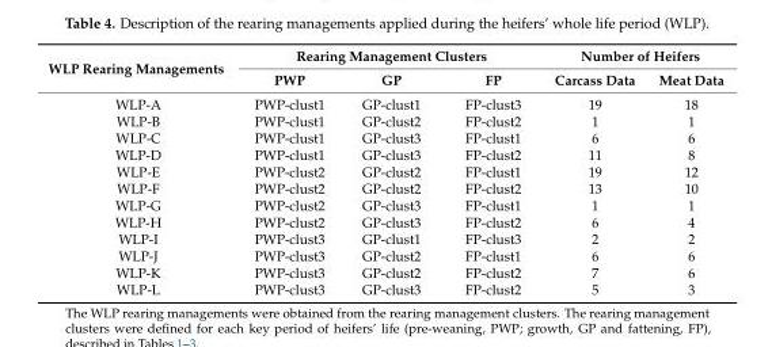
<table><thead><tr><td rowspan="2">WLP Rearing Managements</td><td colspan="3">Rearing Management Clusters</td><td colspan="2">Number of Heifers</td></tr><tr><td>PWP</td><td>GP</td><td>FP</td><td>Carcass Data</td><td>Meat Data</td></tr></thead><tbody><tr><td>WLP-A</td><td>PWP-clust1</td><td>GP-clust1</td><td>FP-clust3</td><td>19</td><td>18</td></tr><tr><td>WLP-B</td><td>PWP-clust1</td><td>GP-clust2</td><td>FP-clust2</td><td>1</td><td>1</td></tr><tr><td>WLP-C</td><td>PWP-clust1</td><td>GP-clust3</td><td>FP-clust1</td><td>6</td><td>6</td></tr><tr><td>WLP-D</td><td>PWP-clust1</td><td>GP-clust3</td><td>FP-clust2</td><td>11</td><td>8</td></tr><tr><td>WLP-E</td><td>PWP-clust2</td><td>GP-clust2</td><td>FP-clust1</td><td>19</td><td>12</td></tr><tr><td>WLP-F</td><td>PWP-clust2</td><td>GP-clust2</td><td>FP-clust2</td><td>13</td><td>10</td></tr><tr><td>WLP-G</td><td>PWP-clust2</td><td>GP-clust3</td><td>FP-clust1</td><td>1</td><td>1</td></tr><tr><td>WLP-H</td><td>PWP-clust2</td><td>GP-clust3</td><td>FP-clust2</td><td>6</td><td>4</td></tr><tr><td>WLP-I</td><td>PWP-clust3</td><td>GP-clust1</td><td>FP-clust3</td><td>2</td><td>2</td></tr><tr><td>WLP-J</td><td>PWP-clust3</td><td>GP-clust2</td><td>FP-clust1</td><td>6</td><td>6</td></tr><tr><td>WLP-K</td><td>PWP-clust3</td><td>GP-clust2</td><td>FP-clust2</td><td>7</td><td>6</td></tr><tr><td>WLP-L</td><td>PWP-clust3</td><td>GP-clust3</td><td>FP-clust2</td><td>5</td><td>3</td></tr></tbody></table>